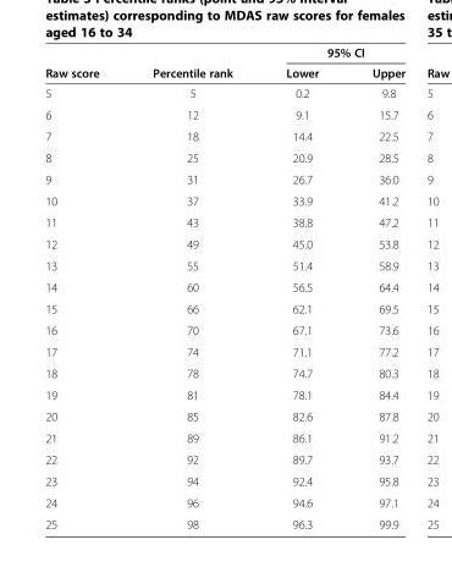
<table><thead><tr><td rowspan="2">Raw score</td><td rowspan="2">Percentile rank</td><td colspan="2">95% CI</td></tr><tr><td>Lower</td><td>Upper</td></tr></thead><tbody><tr><td>5</td><td>5</td><td>0.2</td><td>9.8</td></tr><tr><td>6</td><td>12</td><td>9.1</td><td>15.7</td></tr><tr><td>7</td><td>18</td><td>14.4</td><td>22.5</td></tr><tr><td>8</td><td>25</td><td>20.9</td><td>28.5</td></tr><tr><td>9</td><td>31</td><td>26.7</td><td>36.0</td></tr><tr><td>10</td><td>37</td><td>33.9</td><td>41.2</td></tr><tr><td>11</td><td>43</td><td>38.8</td><td>47.2</td></tr><tr><td>12</td><td>49</td><td>45.0</td><td>53.8</td></tr><tr><td>13</td><td>55</td><td>51.4</td><td>58.9</td></tr><tr><td>14</td><td>60</td><td>56.5</td><td>64.4</td></tr><tr><td>15</td><td>66</td><td>62.1</td><td>69.5</td></tr><tr><td>16</td><td>70</td><td>67.1</td><td>73.6</td></tr><tr><td>17</td><td>74</td><td>71.1</td><td>77.2</td></tr><tr><td>18</td><td>78</td><td>74.7</td><td>80.3</td></tr><tr><td>19</td><td>81</td><td>78.1</td><td>84.4</td></tr><tr><td>20</td><td>85</td><td>82.6</td><td>87.8</td></tr><tr><td>21</td><td>89</td><td>86.1</td><td>91.2</td></tr><tr><td>22</td><td>92</td><td>89.7</td><td>93.7</td></tr><tr><td>23</td><td>94</td><td>92.4</td><td>95.8</td></tr><tr><td>24</td><td>96</td><td>94.6</td><td>97.1</td></tr><tr><td>25</td><td>98</td><td>96.3</td><td>99.9</td></tr></tbody></table>